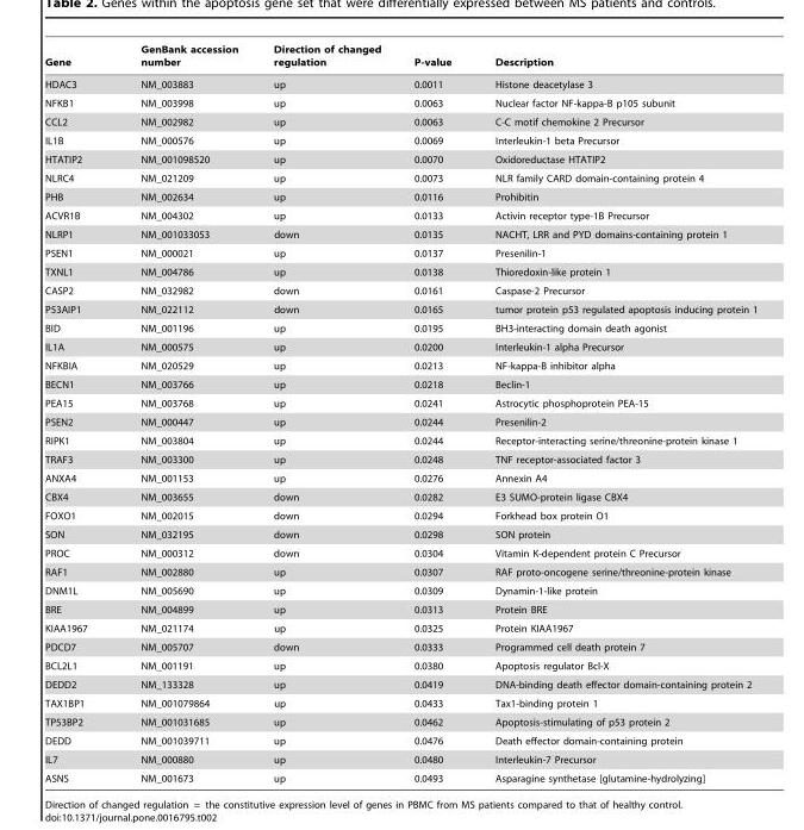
<table><thead><tr><td>Gene</td><td>GenBank accession number</td><td>Direction of changed regulation</td><td>P-value</td><td>Description</td></tr></thead><tbody><tr><td>HDAC3</td><td>NM_003883</td><td>up</td><td>0.0011</td><td>Histone deacetylase 3</td></tr><tr><td>NFKB1</td><td>NM_003998</td><td>up</td><td>0.0063</td><td>Nuclear factor NF-kappa-B p105 subunit</td></tr><tr><td>CCL2</td><td>NM_002982</td><td>up</td><td>0.0063</td><td>C-C motif chemokine 2 Precursor</td></tr><tr><td>IL1B</td><td>NM_000576</td><td>up</td><td>0.0069</td><td>Interleukin-1 beta Precursor</td></tr><tr><td>HTATIP2</td><td>NM_001098520</td><td>up</td><td>0.0070</td><td>Oxidoreductase HTATIP2</td></tr><tr><td>NLRC4</td><td>NM_021209</td><td>up</td><td>0.0073</td><td>NLR family CARD domain-containing protein 4</td></tr><tr><td>PHB</td><td>NM_002634</td><td>up</td><td>0.0116</td><td>Prohibitin</td></tr><tr><td>ACVR1B</td><td>NM_004302</td><td>up</td><td>0.0133</td><td>Activin receptor type-1B Precursor</td></tr><tr><td>NLRP1</td><td>NM_001033053</td><td>down</td><td>0.0135</td><td>NACHT, LRR and PYD domains-containing protein 1</td></tr><tr><td>PSEN1</td><td>NM_000021</td><td>up</td><td>0.0137</td><td>Presenilin-1</td></tr><tr><td>TXNL1</td><td>NM_004786</td><td>up</td><td>0.0138</td><td>Thioredoxin-like protein 1</td></tr><tr><td>CASP2</td><td>NM_032982</td><td>down</td><td>0.0161</td><td>Caspase-2 Precursor</td></tr><tr><td>P53AIP1</td><td>NM_022112</td><td>down</td><td>0.0165</td><td>tumor protein p53 regulated apoptosis inducing protein 1</td></tr><tr><td>BID</td><td>NM_001196</td><td>up</td><td>0.0195</td><td>BH3-interacting domain death agonist</td></tr><tr><td>IL1A</td><td>NM_000575</td><td>up</td><td>0.0200</td><td>Interleukin-1 alpha Precursor</td></tr><tr><td>NFKBIA</td><td>NM_020529</td><td>up</td><td>0.0213</td><td>NF-kappa-B inhibitor alpha</td></tr><tr><td>BECN1</td><td>NM_003766</td><td>up</td><td>0.0218</td><td>Beclin-1</td></tr><tr><td>PEA15</td><td>NM_003768</td><td>up</td><td>0.0241</td><td>Astrocytic phosphoprotein PEA-15</td></tr><tr><td>PSEN2</td><td>NM_000447</td><td>up</td><td>0.0244</td><td>Presenilin-2</td></tr><tr><td>RIPK1</td><td>NM_003804</td><td>up</td><td>0.0244</td><td>Receptor-interacting serine/threonine-protein kinase 1</td></tr><tr><td>TRAF3</td><td>NM_003300</td><td>up</td><td>0.0248</td><td>TNF receptor-associated factor 3</td></tr><tr><td>ANXA4</td><td>NM_001153</td><td>up</td><td>0.0276</td><td>Annexin A4</td></tr><tr><td>CBX4</td><td>NM_003655</td><td>down</td><td>0.0282</td><td>E3 SUMO-protein ligase CBX4</td></tr><tr><td>FOXO1</td><td>NM_002015</td><td>down</td><td>0.0294</td><td>Forkhead box protein O1</td></tr><tr><td>SON</td><td>NM_032195</td><td>down</td><td>0.0298</td><td>SON protein</td></tr><tr><td>PROC</td><td>NM_000312</td><td>down</td><td>0.0304</td><td>Vitamin K-dependent protein C Precursor</td></tr><tr><td>RAF1</td><td>NM_002880</td><td>up</td><td>0.0307</td><td>RAF proto-oncogene serine/threonine-protein kinase</td></tr><tr><td>DNM1L</td><td>NM_005690</td><td>up</td><td>0.0309</td><td>Dynamin-1-like protein</td></tr><tr><td>BRE</td><td>NM_004899</td><td>up</td><td>0.0313</td><td>Protein BRE</td></tr><tr><td>KIAA1967</td><td>NM_021174</td><td>up</td><td>0.0325</td><td>Protein KIAA1967</td></tr><tr><td>PDCD7</td><td>NM_005707</td><td>down</td><td>0.0333</td><td>Programmed cell death protein 7</td></tr><tr><td>BCL2L1</td><td>NM_001191</td><td>up</td><td>0.0380</td><td>Apoptosis regulator Bcl-X</td></tr><tr><td>DEDD2</td><td>NM_133328</td><td>up</td><td>0.0419</td><td>DNA-binding death effector domain-containing protein 2</td></tr><tr><td>TAX1BP1</td><td>NM_001079864</td><td>up</td><td>0.0433</td><td>Tax1-binding protein 1</td></tr><tr><td>TP53BP2</td><td>NM_001031685</td><td>up</td><td>0.0462</td><td>Apoptosis-stimulating of p53 protein 2</td></tr><tr><td>DEDD</td><td>NM_001039711</td><td>up</td><td>0.0476</td><td>Death effector domain-containing protein</td></tr><tr><td>IL7</td><td>NM_000880</td><td>up</td><td>0.0480</td><td>Interleukin-7 Precursor</td></tr><tr><td>ASNS</td><td>NM_001673</td><td>up</td><td>0.0493</td><td>Asparagine synthetase [glutamine-hydrolyzing]</td></tr></tbody></table>